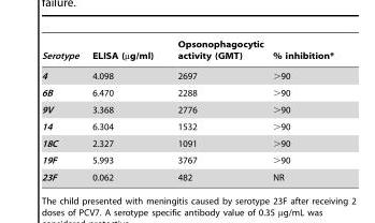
<table><thead><tr><td>Serotype</td><td>ELISA (µg/ml)</td><td>Opsonophagocytic activity (GMT)</td><td>% inhibition*</td></tr></thead><tbody><tr><td>4</td><td>4.098</td><td>2697</td><td>&gt;90</td></tr><tr><td>6B</td><td>6.470</td><td>2288</td><td>&gt;90</td></tr><tr><td>9V</td><td>3.368</td><td>2776</td><td>&gt;90</td></tr><tr><td>14</td><td>6.304</td><td>1532</td><td>&gt;90</td></tr><tr><td>18C</td><td>2.327</td><td>1091</td><td>&gt;90</td></tr><tr><td>19F</td><td>5.993</td><td>3767</td><td>&gt;90</td></tr><tr><td>23F</td><td>0.062</td><td>482</td><td>NR</td></tr></tbody></table>